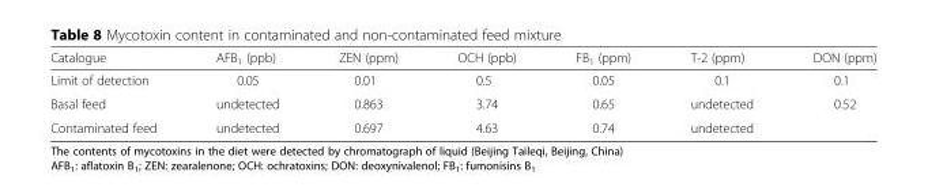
<table><thead><tr><td>Catalogue</td><td>AFB<sub>1</sub> (ppb)</td><td>ZEN (ppm)</td><td>OCH (ppb)</td><td>FB<sub>1</sub> (ppm)</td><td>T-2 (ppm)</td><td>DON (ppm)</td></tr></thead><tbody><tr><td>Limit of detection</td><td>0.05</td><td>0.01</td><td>0.5</td><td>0.05</td><td>0.1</td><td>0.1</td></tr><tr><td>Basal feed</td><td>undetected</td><td>0.863</td><td>3.74</td><td>0.65</td><td>undetected</td><td>0.52</td></tr><tr><td>Contaminated feed</td><td>undetected</td><td>0.697</td><td>4.63</td><td>0.74</td><td>undetected</td><td></td></tr></tbody></table>